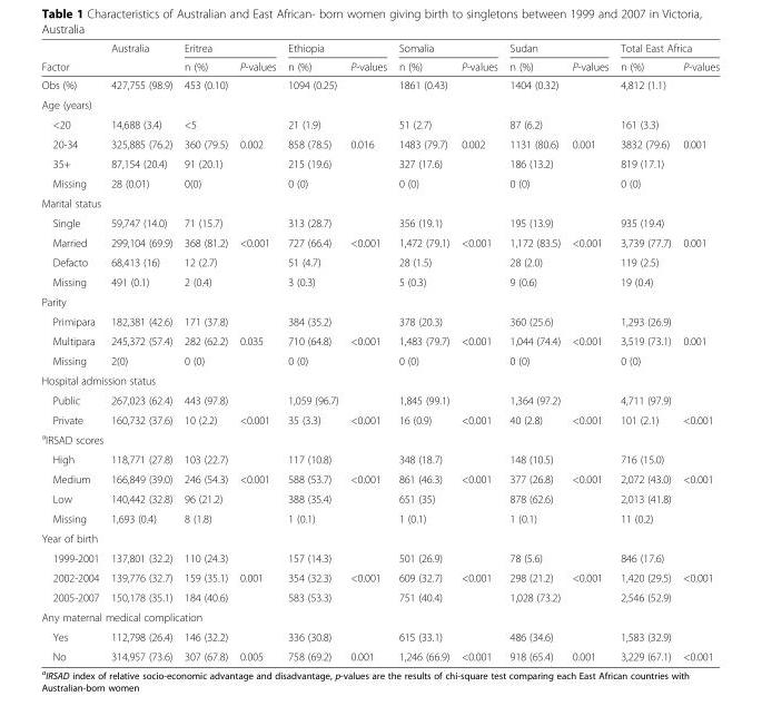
<table><thead><tr><td rowspan="2">Factor</td><td rowspan="2">Australia</td><td colspan="2">Eritrea</td><td colspan="2">Ethiopia</td><td colspan="2">Somalia</td><td colspan="2">Sudan</td><td colspan="2">Total East Africa</td></tr><tr><td>n (%)</td><td>P-values</td><td>n (%)</td><td>P-values</td><td>n (%)</td><td>P-values</td><td>n (%)</td><td>P-values</td><td>n (%)</td><td>P-values</td></tr></thead><tbody><tr><td>Obs (%)</td><td>427,755 (98.9)</td><td>453 (0.10)</td><td></td><td>1094 (0.25)</td><td></td><td>1861 (0.43)</td><td></td><td>1404 (0.32)</td><td></td><td>4,812 (1.1)</td><td></td></tr><tr><td colspan="12">Age (years)</td></tr><tr><td>&lt;20</td><td>14,688 (3.4)</td><td>&lt;5</td><td></td><td>21 (1.9)</td><td></td><td>51 (2.7)</td><td></td><td>87 (6.2)</td><td></td><td>161 (3.3)</td><td></td></tr><tr><td>20-34</td><td>325,885 (76.2)</td><td>360 (79.5)</td><td>0.002</td><td>858 (78.5)</td><td>0.016</td><td>1483 (79.7)</td><td>0.002</td><td>1131 (80.6)</td><td>0.001</td><td>3832 (79.6)</td><td>0.001</td></tr><tr><td>35+</td><td>87,154 (20.4)</td><td>91 (20.1)</td><td></td><td>215 (19.6)</td><td></td><td>327 (17.6)</td><td></td><td>186 (13.2)</td><td></td><td>819 (17.1)</td><td></td></tr><tr><td>Missing</td><td>28 (0.01)</td><td>0(0)</td><td></td><td>0 (0)</td><td></td><td>0 (0)</td><td></td><td>0 (0)</td><td></td><td>0 (0)</td><td></td></tr><tr><td colspan="12">Marital status</td></tr><tr><td>Single</td><td>59,747 (14.0)</td><td>71 (15.7)</td><td></td><td>313 (28.7)</td><td></td><td>356 (19.1)</td><td></td><td>195 (13.9)</td><td></td><td>935 (19.4)</td><td></td></tr><tr><td>Married</td><td>299,104 (69.9)</td><td>368 (81.2)</td><td>&lt;0.001</td><td>727 (66.4)</td><td>&lt;0.001</td><td>1,472 (79.1)</td><td>&lt;0.001</td><td>1,172 (83.5)</td><td>&lt;0.001</td><td>3,739 (77.7)</td><td>0.001</td></tr><tr><td>Defacto</td><td>68,413 (16)</td><td>12 (2.7)</td><td></td><td>51 (4.7)</td><td></td><td>28 (1.5)</td><td></td><td>28 (2.0)</td><td></td><td>119 (2.5)</td><td></td></tr><tr><td>Missing</td><td>491 (0.1)</td><td>2 (0.4)</td><td></td><td>3 (0.3)</td><td></td><td>5 (0.3)</td><td></td><td>9 (0.6)</td><td></td><td>19 (0.4)</td><td></td></tr><tr><td colspan="12">Parity</td></tr><tr><td>Primipara</td><td>182,381 (42.6)</td><td>171 (37.8)</td><td></td><td>384 (35.2)</td><td></td><td>378 (20.3)</td><td></td><td>360 (25.6)</td><td></td><td>1,293 (26.9)</td><td></td></tr><tr><td>Multipara</td><td>245,372 (57.4)</td><td>282 (62.2)</td><td>0.035</td><td>710 (64.8)</td><td>&lt;0.001</td><td>1,483 (79.7)</td><td>&lt;0.001</td><td>1,044 (74.4)</td><td>&lt;0.001</td><td>3,519 (73.1)</td><td>0.001</td></tr><tr><td>Missing</td><td>2(0)</td><td>0 (0)</td><td></td><td>0 (0)</td><td></td><td>0 (0)</td><td></td><td>0 (0)</td><td></td><td>0 (0)</td><td></td></tr><tr><td colspan="12">Hospital admission status</td></tr><tr><td>Public</td><td>267,023 (62.4)</td><td>443 (97.8)</td><td></td><td>1,059 (96.7)</td><td></td><td>1,845 (99.1)</td><td></td><td>1,364 (97.2)</td><td></td><td>4,711 (97.9)</td><td></td></tr><tr><td>Private</td><td>160,732 (37.6)</td><td>10 (2.2)</td><td>&lt;0.001</td><td>35 (3.3)</td><td>&lt;0.001</td><td>16 (0.9)</td><td>&lt;0.001</td><td>40 (2.8)</td><td>&lt;0.001</td><td>101 (2.1)</td><td>&lt;0.001</td></tr><tr><td colspan="12"><sup>a</sup>IRSAD scores</td></tr><tr><td>High</td><td>118,771 (27.8)</td><td>103 (22.7)</td><td></td><td>117 (10.8)</td><td></td><td>348 (18.7)</td><td></td><td>148 (10.5)</td><td></td><td>716 (15.0)</td><td></td></tr><tr><td>Medium</td><td>166,849 (39.0)</td><td>246 (54.3)</td><td>&lt;0.001</td><td>588 (53.7)</td><td>&lt;0.001</td><td>861 (46.3)</td><td>&lt;0.001</td><td>377 (26.8)</td><td>&lt;0.001</td><td>2,072 (43.0)</td><td>&lt;0.001</td></tr><tr><td>Low</td><td>140,442 (32.8)</td><td>96 (21.2)</td><td></td><td>388 (35.4)</td><td></td><td>651 (35)</td><td></td><td>878 (62.6)</td><td></td><td>2,013 (41.8)</td><td></td></tr><tr><td>Missing</td><td>1,693 (0.4)</td><td>8 (1.8)</td><td></td><td>1 (0.1)</td><td></td><td>1 (0.1)</td><td></td><td>1 (0.1)</td><td></td><td>11 (0.2)</td><td></td></tr><tr><td colspan="12">Year of birth</td></tr><tr><td>1999-2001</td><td>137,801 (32.2)</td><td>110 (24.3)</td><td></td><td>157 (14.3)</td><td></td><td>501 (26.9)</td><td></td><td>78 (5.6)</td><td></td><td>846 (17.6)</td><td></td></tr><tr><td>2002-2004</td><td>139,776 (32.7)</td><td>159 (35.1)</td><td>0.001</td><td>354 (32.3)</td><td>&lt;0.001</td><td>609 (32.7)</td><td>&lt;0.001</td><td>298 (21.2)</td><td>&lt;0.001</td><td>1,420 (29.5)</td><td>&lt;0.001</td></tr><tr><td>2005-2007</td><td>150,178 (35.1)</td><td>184 (40.6)</td><td></td><td>583 (53.3)</td><td></td><td>751 (40.4)</td><td></td><td>1,028 (73.2)</td><td></td><td>2,546 (52.9)</td><td></td></tr><tr><td colspan="12">Any maternal medical complication</td></tr><tr><td>Yes</td><td>112,798 (26.4)</td><td>146 (32.2)</td><td></td><td>336 (30.8)</td><td></td><td>615 (33.1)</td><td></td><td>486 (34.6)</td><td></td><td>1,583 (32.9)</td><td></td></tr><tr><td>No</td><td>314,957 (73.6)</td><td>307 (67.8)</td><td>0.005</td><td>758 (69.2)</td><td>0.001</td><td>1,246 (66.9)</td><td>&lt;0.001</td><td>918 (65.4)</td><td>0.001</td><td>3,229 (67.1)</td><td>&lt;0.001</td></tr></tbody></table>